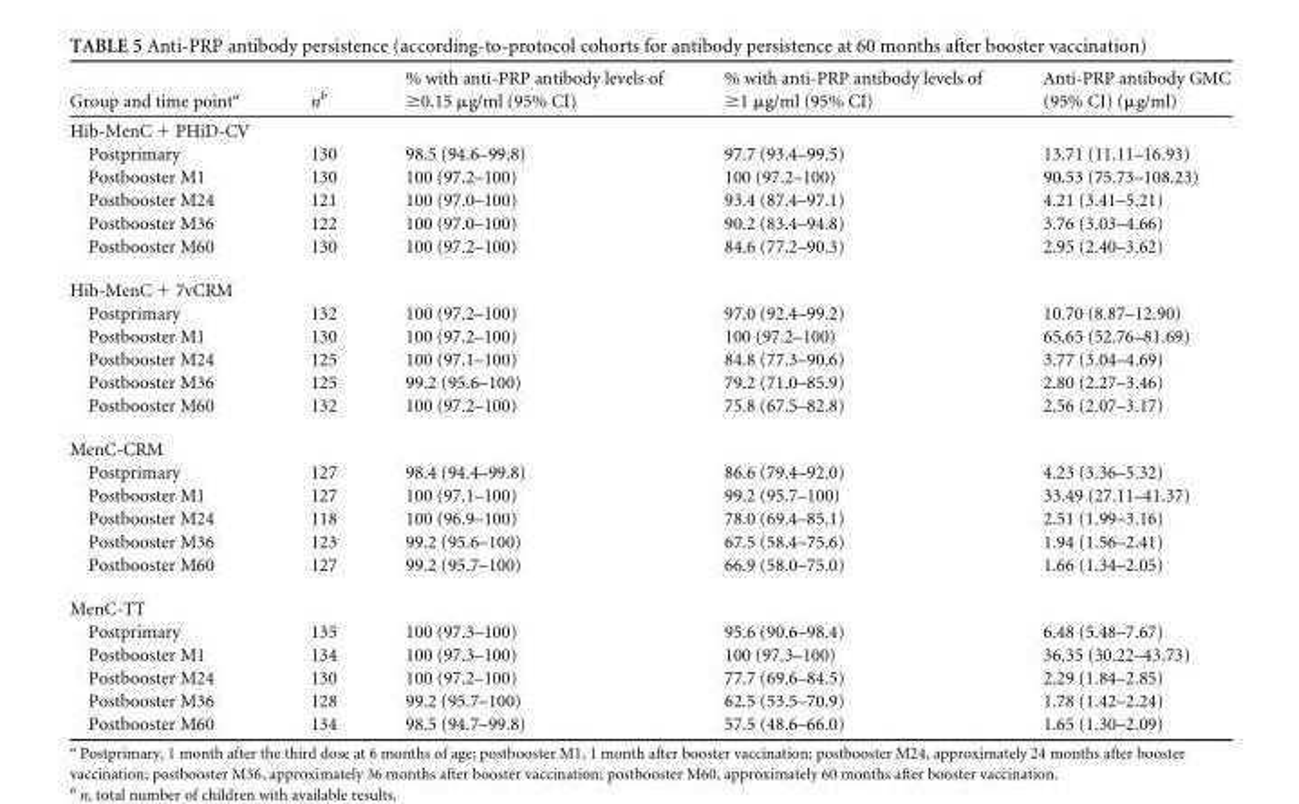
<table><thead><tr><td>Group and time point<sup>a</sup></td><td>n<sup>b</sup></td><td>% with anti-PRP antibody levels of ≥0.15 μg/ml (95% CI)</td><td>% with anti-PRP antibody levels of ≥1 μg/ml (95% CI)</td><td>Anti-PRP antibody GMC (95% CI) (μg/ml)</td></tr></thead><tbody><tr><td colspan="5">Hib-MenC + PHiD-CV</td></tr><tr><td>Postprimary</td><td>130</td><td>98.5 (94.6–99.8)</td><td>97.7 (93.4–99.5)</td><td>13.71 (11.11–16.93)</td></tr><tr><td>Postbooster M1</td><td>130</td><td>100 (97.2–100)</td><td>100 (97.2–100)</td><td>90.53 (75.73–108.23)</td></tr><tr><td>Postbooster M24</td><td>121</td><td>100 (97.0–100)</td><td>93.4 (87.4–97.1)</td><td>4.21 (3.41–5.21)</td></tr><tr><td>Postbooster M36</td><td>122</td><td>100 (97.0–100)</td><td>90.2 (83.4–94.8)</td><td>3.76 (3.03–4.66)</td></tr><tr><td>Postbooster M60</td><td>130</td><td>100 (97.2–100)</td><td>84.6 (77.2–90.3)</td><td>2.95 (2.40–3.62)</td></tr><tr><td colspan="5">Hib-MenC + 7vCRM</td></tr><tr><td>Postprimary</td><td>132</td><td>100 (97.2–100)</td><td>97.0 (92.4–99.2)</td><td>10.70 (8.87–12.90)</td></tr><tr><td>Postbooster M1</td><td>130</td><td>100 (97.2–100)</td><td>100 (97.2–100)</td><td>65.65 (52.76–81.69)</td></tr><tr><td>Postbooster M24</td><td>125</td><td>100 (97.1–100)</td><td>84.8 (77.3–90.6)</td><td>3.77 (3.04–4.69)</td></tr><tr><td>Postbooster M36</td><td>125</td><td>99.2 (95.6–100)</td><td>79.2 (71.0–85.9)</td><td>2.80 (2.27–3.46)</td></tr><tr><td>Postbooster M60</td><td>132</td><td>100 (97.2–100)</td><td>75.8 (67.5–82.8)</td><td>2.56 (2.07–3.17)</td></tr><tr><td colspan="5">MenC-CRM</td></tr><tr><td>Postprimary</td><td>127</td><td>98.4 (94.4–99.8)</td><td>86.6 (79.4–92.0)</td><td>4.23 (3.36–5.32)</td></tr><tr><td>Postbooster M1</td><td>127</td><td>100 (97.1–100)</td><td>99.2 (95.7–100)</td><td>33.49 (27.11–41.37)</td></tr><tr><td>Postbooster M24</td><td>118</td><td>100 (96.9–100)</td><td>78.0 (69.4–85.1)</td><td>2.51 (1.99–3.16)</td></tr><tr><td>Postbooster M36</td><td>123</td><td>99.2 (95.6–100)</td><td>67.5 (58.4–75.6)</td><td>1.94 (1.56–2.41)</td></tr><tr><td>Postbooster M60</td><td>127</td><td>99.2 (95.7–100)</td><td>66.9 (58.0–75.0)</td><td>1.66 (1.34–2.05)</td></tr><tr><td colspan="5">MenC-TT</td></tr><tr><td>Postprimary</td><td>135</td><td>100 (97.3–100)</td><td>95.6 (90.6–98.4)</td><td>6.48 (5.48–7.67)</td></tr><tr><td>Postbooster M1</td><td>134</td><td>100 (97.3–100)</td><td>100 (97.3–100)</td><td>36.35 (30.22–43.73)</td></tr><tr><td>Postbooster M24</td><td>130</td><td>100 (97.2–100)</td><td>77.7 (69.6–84.5)</td><td>2.29 (1.84–2.85)</td></tr><tr><td>Postbooster M36</td><td>128</td><td>99.2 (95.7–100)</td><td>62.5 (53.5–70.9)</td><td>1.78 (1.42–2.24)</td></tr><tr><td>Postbooster M60</td><td>134</td><td>98.5 (94.7–99.8)</td><td>57.5 (48.6–66.0)</td><td>1.65 (1.30–2.09)</td></tr></tbody></table>